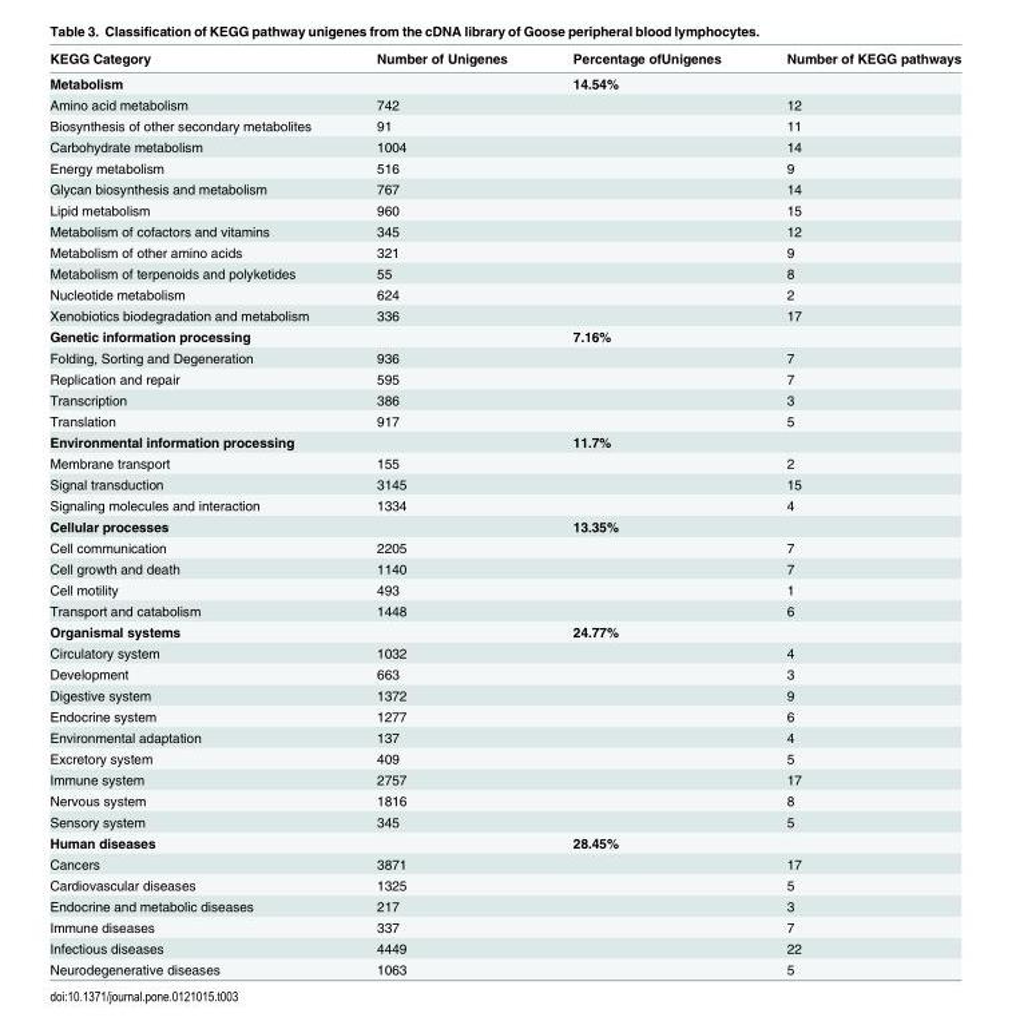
<table><thead><tr><td>KEGG Category</td><td>Number of Unigenes</td><td>Percentage ofUnigenes</td><td>Number of KEGG pathways</td></tr></thead><tbody><tr><td>Metabolism</td><td></td><td>14.54%</td><td></td></tr><tr><td>Amino acid metabolism</td><td>742</td><td></td><td>12</td></tr><tr><td>Biosynthesis of other secondary metabolites</td><td>91</td><td></td><td>11</td></tr><tr><td>Carbohydrate metabolism</td><td>1004</td><td></td><td>14</td></tr><tr><td>Energy metabolism</td><td>516</td><td></td><td>9</td></tr><tr><td>Glycan biosynthesis and metabolism</td><td>767</td><td></td><td>14</td></tr><tr><td>Lipid metabolism</td><td>960</td><td></td><td>15</td></tr><tr><td>Metabolism of cofactors and vitamins</td><td>345</td><td></td><td>12</td></tr><tr><td>Metabolism of other amino acids</td><td>321</td><td></td><td>9</td></tr><tr><td>Metabolism of terpenoids and polyketides</td><td>55</td><td></td><td>8</td></tr><tr><td>Nucleotide metabolism</td><td>624</td><td></td><td>2</td></tr><tr><td>Xenobiotics biodegradation and metabolism</td><td>336</td><td></td><td>17</td></tr><tr><td>Genetic information processing</td><td></td><td>7.16%</td><td></td></tr><tr><td>Folding, Sorting and Degeneration</td><td>936</td><td></td><td>7</td></tr><tr><td>Replication and repair</td><td>595</td><td></td><td>7</td></tr><tr><td>Transcription</td><td>386</td><td></td><td>3</td></tr><tr><td>Translation</td><td>917</td><td></td><td>5</td></tr><tr><td>Environmental information processing</td><td></td><td>11.7%</td><td></td></tr><tr><td>Membrane transport</td><td>155</td><td></td><td>2</td></tr><tr><td>Signal transduction</td><td>3145</td><td></td><td>15</td></tr><tr><td>Signaling molecules and interaction</td><td>1334</td><td></td><td>4</td></tr><tr><td>Cellular processes</td><td></td><td>13.35%</td><td></td></tr><tr><td>Cell communication</td><td>2205</td><td></td><td>7</td></tr><tr><td>Cell growth and death</td><td>1140</td><td></td><td>7</td></tr><tr><td>Cell motility</td><td>493</td><td></td><td>1</td></tr><tr><td>Transport and catabolism</td><td>1448</td><td></td><td>6</td></tr><tr><td>Organismal systems</td><td></td><td>24.77%</td><td></td></tr><tr><td>Circulatory system</td><td>1032</td><td></td><td>4</td></tr><tr><td>Development</td><td>663</td><td></td><td>3</td></tr><tr><td>Digestive system</td><td>1372</td><td></td><td>9</td></tr><tr><td>Endocrine system</td><td>1277</td><td></td><td>6</td></tr><tr><td>Environmental adaptation</td><td>137</td><td></td><td>4</td></tr><tr><td>Excretory system</td><td>409</td><td></td><td>5</td></tr><tr><td>Immune system</td><td>2757</td><td></td><td>17</td></tr><tr><td>Nervous system</td><td>1816</td><td></td><td>8</td></tr><tr><td>Sensory system</td><td>345</td><td></td><td>5</td></tr><tr><td>Human diseases</td><td></td><td>28.45%</td><td></td></tr><tr><td>Cancers</td><td>3871</td><td></td><td>17</td></tr><tr><td>Cardiovascular diseases</td><td>1325</td><td></td><td>5</td></tr><tr><td>Endocrine and metabolic diseases</td><td>217</td><td></td><td>3</td></tr><tr><td>Immune diseases</td><td>337</td><td></td><td>7</td></tr><tr><td>Infectious diseases</td><td>4449</td><td></td><td>22</td></tr><tr><td>Neurodegenerative diseases</td><td>1063</td><td></td><td>5</td></tr></tbody></table>